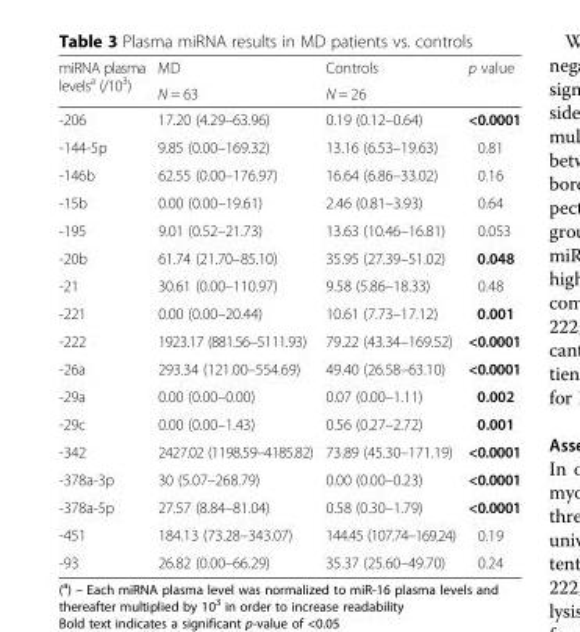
<table><thead><tr><td rowspan="2">miRNA plasma levels<sup>a</sup> (/10<sup>3</sup>)</td><td rowspan="2">MD N = 63</td><td rowspan="2">Controls N = 26</td><td rowspan="2">p value</td></tr><tr></tr></thead><tbody><tr><td>-206</td><td>17.20 (4.29–63.96)</td><td>0.19 (0.12–0.64)</td><td>&lt;0.0001</td></tr><tr><td>-144-5p</td><td>9.85 (0.00–169.32)</td><td>13.16 (6.53–19.63)</td><td>0.81</td></tr><tr><td>-146b</td><td>62.55 (0.00–176.97)</td><td>16.64 (6.86–33.02)</td><td>0.16</td></tr><tr><td>-15b</td><td>0.00 (0.00–19.61)</td><td>2.46 (0.81–3.93)</td><td>0.64</td></tr><tr><td>-195</td><td>9.01 (0.52–21.73)</td><td>13.63 (10.46–16.81)</td><td>0.053</td></tr><tr><td>-20b</td><td>61.74 (21.70–85.10)</td><td>35.95 (27.39–51.02)</td><td>0.048</td></tr><tr><td>-21</td><td>30.61 (0.00–110.97)</td><td>9.58 (5.86–18.33)</td><td>0.48</td></tr><tr><td>-221</td><td>0.00 (0.00–20.44)</td><td>10.61 (7.73–17.12)</td><td>0.001</td></tr><tr><td>-222</td><td>1923.17 (881.56–5111.93)</td><td>79.22 (43.34–169.52)</td><td>&lt;0.0001</td></tr><tr><td>-26a</td><td>293.34 (121.00–554.69)</td><td>49.40 (26.58–63.10)</td><td>&lt;0.0001</td></tr><tr><td>-29a</td><td>0.00 (0.00–0.00)</td><td>0.07 (0.00–1.11)</td><td>0.002</td></tr><tr><td>-29c</td><td>0.00 (0.00–1.43)</td><td>0.56 (0.27–2.72)</td><td>0.001</td></tr><tr><td>-342</td><td>2427.02 (1198.59–4185.82)</td><td>73.89 (45.30–171.19)</td><td>&lt;0.0001</td></tr><tr><td>-378a-3p</td><td>30 (5.07–268.79)</td><td>0.00 (0.00–0.23)</td><td>&lt;0.0001</td></tr><tr><td>-378a-5p</td><td>27.57 (8.84–81.04)</td><td>0.58 (0.30–1.79)</td><td>&lt;0.0001</td></tr><tr><td>-451</td><td>184.13 (73.28–343.07)</td><td>144.45 (107.74–169.24)</td><td>0.19</td></tr><tr><td>-93</td><td>26.82 (0.00–66.29)</td><td>35.37 (25.60–49.70)</td><td>0.24</td></tr></tbody></table>